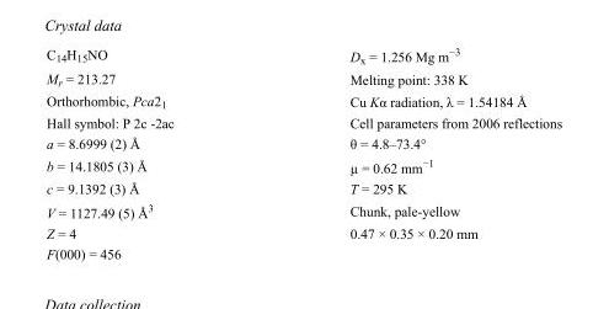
<table><tbody><tr><td>C<sub>14</sub>H<sub>15</sub>NO</td><td>D<sub>x</sub> = 1.256 Mg m<sup>−3</sup></td></tr><tr><td>M<sub>r</sub> = 213.27</td><td>Melting point: 338 K</td></tr><tr><td>Orthorhombic, Pca2<sub>1</sub></td><td>Cu Kα radiation, λ = 1.54184 Å</td></tr><tr><td>Hall symbol: P 2c -2ac</td><td>Cell parameters from 2006 reflections</td></tr><tr><td>a = 8.6999 (2) Å</td><td>θ = 4.8–73.4°</td></tr><tr><td>b = 14.1805 (3) Å</td><td>µ = 0.62 mm<sup>−1</sup></td></tr><tr><td>c = 9.1392 (3) Å</td><td>T = 295 K</td></tr><tr><td>V = 1127.49 (5) Å<sup>3</sup></td><td>Chunk, pale-yellow</td></tr><tr><td>Z = 4</td><td>0.47 × 0.35 × 0.20 mm</td></tr><tr><td>F(000) = 456</td><td></td></tr></tbody></table>